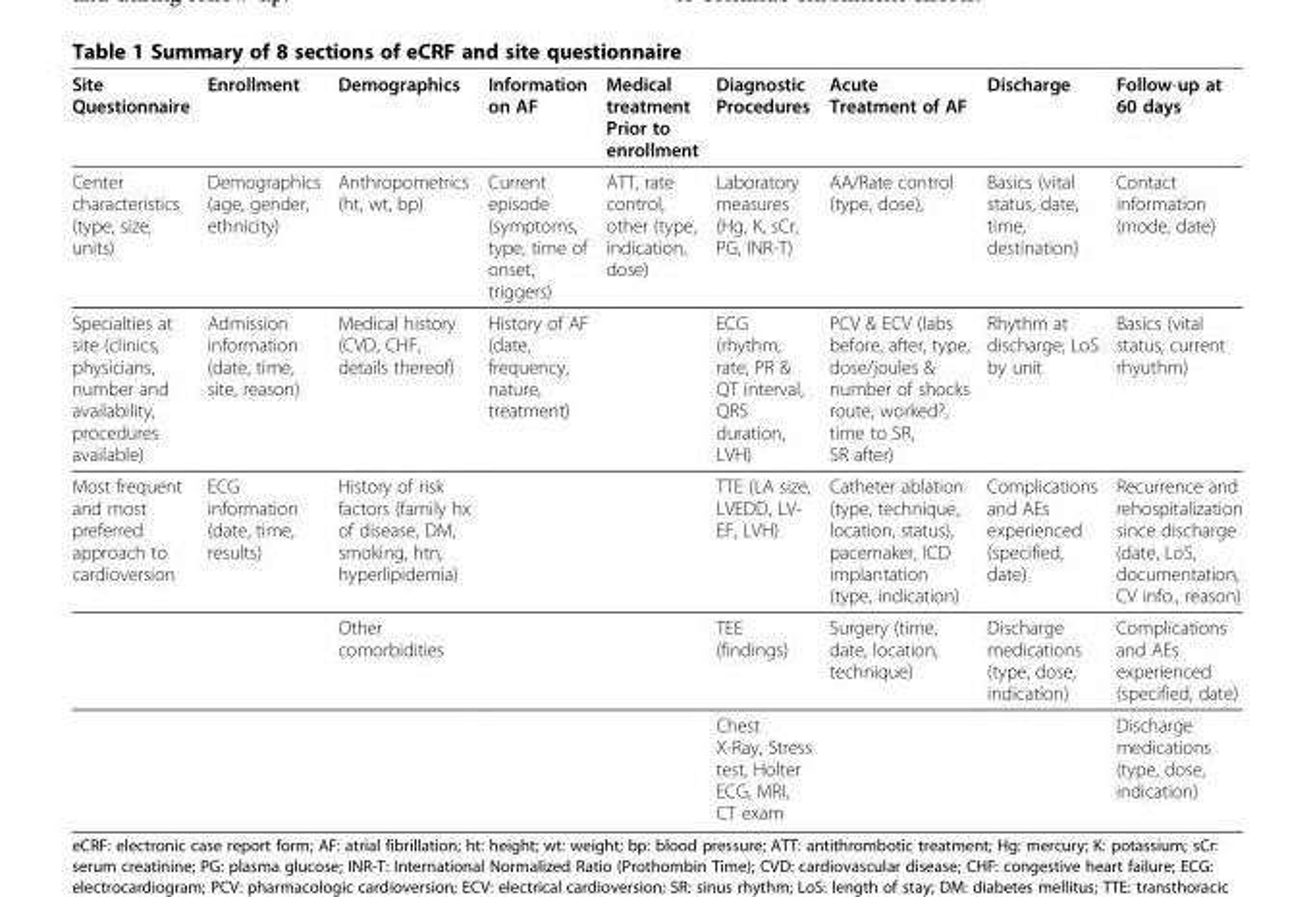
<table><thead><tr><td>Site Questionnaire</td><td>Enrollment</td><td>Demographics</td><td>Information on AF</td><td>Medical treatment Prior to enrollment</td><td>Diagnostic Procedures</td><td>Acute Treatment of AF</td><td>Discharge</td><td>Follow-up at 60 days</td></tr></thead><tbody><tr><td>Center characteristics (type, size, units)</td><td>Demographics (age, gender, ethnicity)</td><td>Anthropometrics (ht, wt, bp)</td><td>Current episode (symptoms, type, time of onset, triggers)</td><td>ATT, rate control, other (type, indication, dose)</td><td>Laboratory measures (Hg, K, sCr, PG, INR-T)</td><td>AA/Rate control (type, dose),</td><td>Basics (vital status, date, time, destination)</td><td>Contact information (mode, date)</td></tr><tr><td>Specialties at site (clinics, physicians, number and availability, procedures available)</td><td>Admission information (date, time, site, reason)</td><td>Medical history (CVD, CHF, details thereof)</td><td>History of AF (date, frequency, nature, treatment)</td><td></td><td>ECG (rhythm, rate, PR &amp; QT interval, QRS duration, LVH)</td><td>PCV &amp; ECV (labs before, after, type, dose/joules &amp; number of shocks route, worked?, time to SR, SR after)</td><td>Rhythm at discharge; LoS by unit</td><td>Basics (vital status, current rhyuthm)</td></tr><tr><td rowspan="3">Most frequent and most preferred approach to cardioversion</td><td>ECG information (date, time, results)</td><td>History of risk factors (family hx of disease, DM, smoking, htn, hyperlipidemia)</td><td></td><td></td><td>TTE (LA size, LVEDD, LV- EF, LVH)</td><td>Catheter ablation (type, technique, location, status), pacemaker, ICD implantation (type, indication)</td><td>Complications and AEs experienced (specified, date)</td><td>Recurrence and rehospitalization since discharge (date, LoS, documentation, CV info., reason)</td></tr><tr><td></td><td>Other comorbidities</td><td></td><td></td><td>TEE (findings)</td><td>Surgery (time, date, location, technique)</td><td>Discharge medications (type, dose, indication)</td><td>Complications and AEs experienced (specified, date)</td></tr><tr><td></td><td></td><td></td><td></td><td>Chest X-Ray, Stress test, Holter ECG, MRI, CT exam</td><td></td><td></td><td>Discharge medications (type, dose, indication)</td></tr></tbody></table>